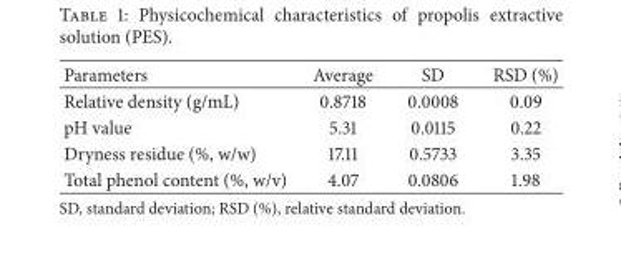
<table><thead><tr><td>Parameters</td><td>Average</td><td>SD</td><td>RSD (%)</td></tr></thead><tbody><tr><td>Relative density (g/mL)</td><td>0.8718</td><td>0.0008</td><td>0.09</td></tr><tr><td>pH value</td><td>5.31</td><td>0.0115</td><td>0.22</td></tr><tr><td>Dryness residue (%, w/w)</td><td>17.11</td><td>0.5733</td><td>3.35</td></tr><tr><td>Total phenol content (%, w/v)</td><td>4.07</td><td>0.0806</td><td>1.98</td></tr></tbody></table>